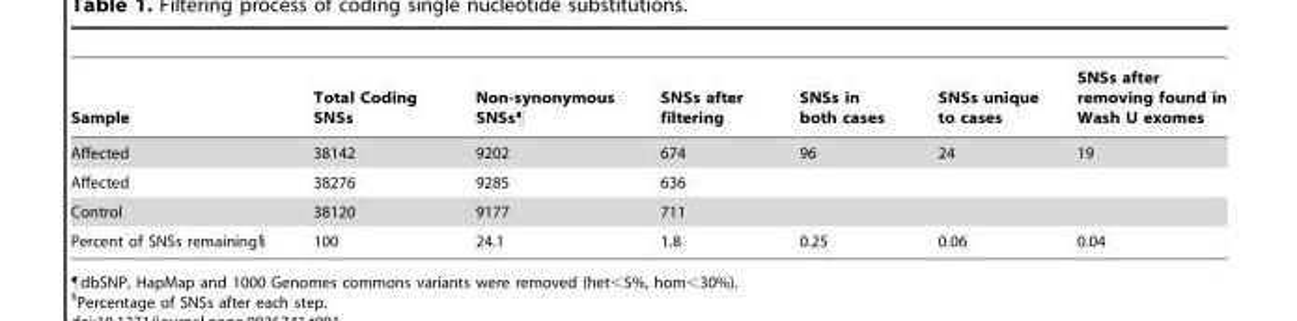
<table><thead><tr><td>Sample</td><td>Total Coding SNSs</td><td>Non-synonymous SNSs¶</td><td>SNSs after filtering</td><td>SNSs in both cases</td><td>SNSs unique to cases</td><td>SNSs after removing found in Wash U exomes</td></tr></thead><tbody><tr><td>Affected</td><td>38142</td><td>9202</td><td>674</td><td>96</td><td>24</td><td>19</td></tr><tr><td>Affected</td><td>38276</td><td>9285</td><td>636</td><td></td><td></td><td></td></tr><tr><td>Control</td><td>38120</td><td>9177</td><td>711</td><td></td><td></td><td></td></tr><tr><td>Percent of SNSs remaining§</td><td>100</td><td>24.1</td><td>1.8</td><td>0.25</td><td>0.06</td><td>0.04</td></tr></tbody></table>